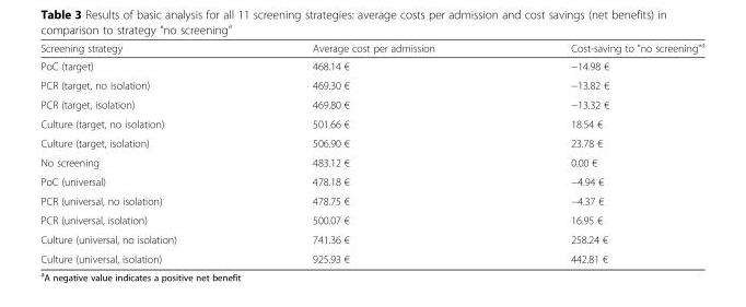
<table><thead><tr><td>Screening strategy</td><td>Average cost per admission</td><td>Cost-saving to &quot;no screening&quot;<sup>a</sup></td></tr></thead><tbody><tr><td>PoC (target)</td><td>468.14 €</td><td>−14.98 €</td></tr><tr><td>PCR (target, no isolation)</td><td>469.30 €</td><td>−13.82 €</td></tr><tr><td>PCR (target, isolation)</td><td>469.80 €</td><td>−13.32 €</td></tr><tr><td>Culture (target, no isolation)</td><td>501.66 €</td><td>18.54 €</td></tr><tr><td>Culture (target, isolation)</td><td>506.90 €</td><td>23.78 €</td></tr><tr><td>No screening</td><td>483.12 €</td><td>0.00 €</td></tr><tr><td>PoC (universal)</td><td>478.18 €</td><td>−4.94 €</td></tr><tr><td>PCR (universal, no isolation)</td><td>478.75 €</td><td>−4.37 €</td></tr><tr><td>PCR (universal, isolation)</td><td>500.07 €</td><td>16.95 €</td></tr><tr><td>Culture (universal, no isolation)</td><td>741.36 €</td><td>258.24 €</td></tr><tr><td>Culture (universal, isolation)</td><td>925.93 €</td><td>442.81 €</td></tr></tbody></table>